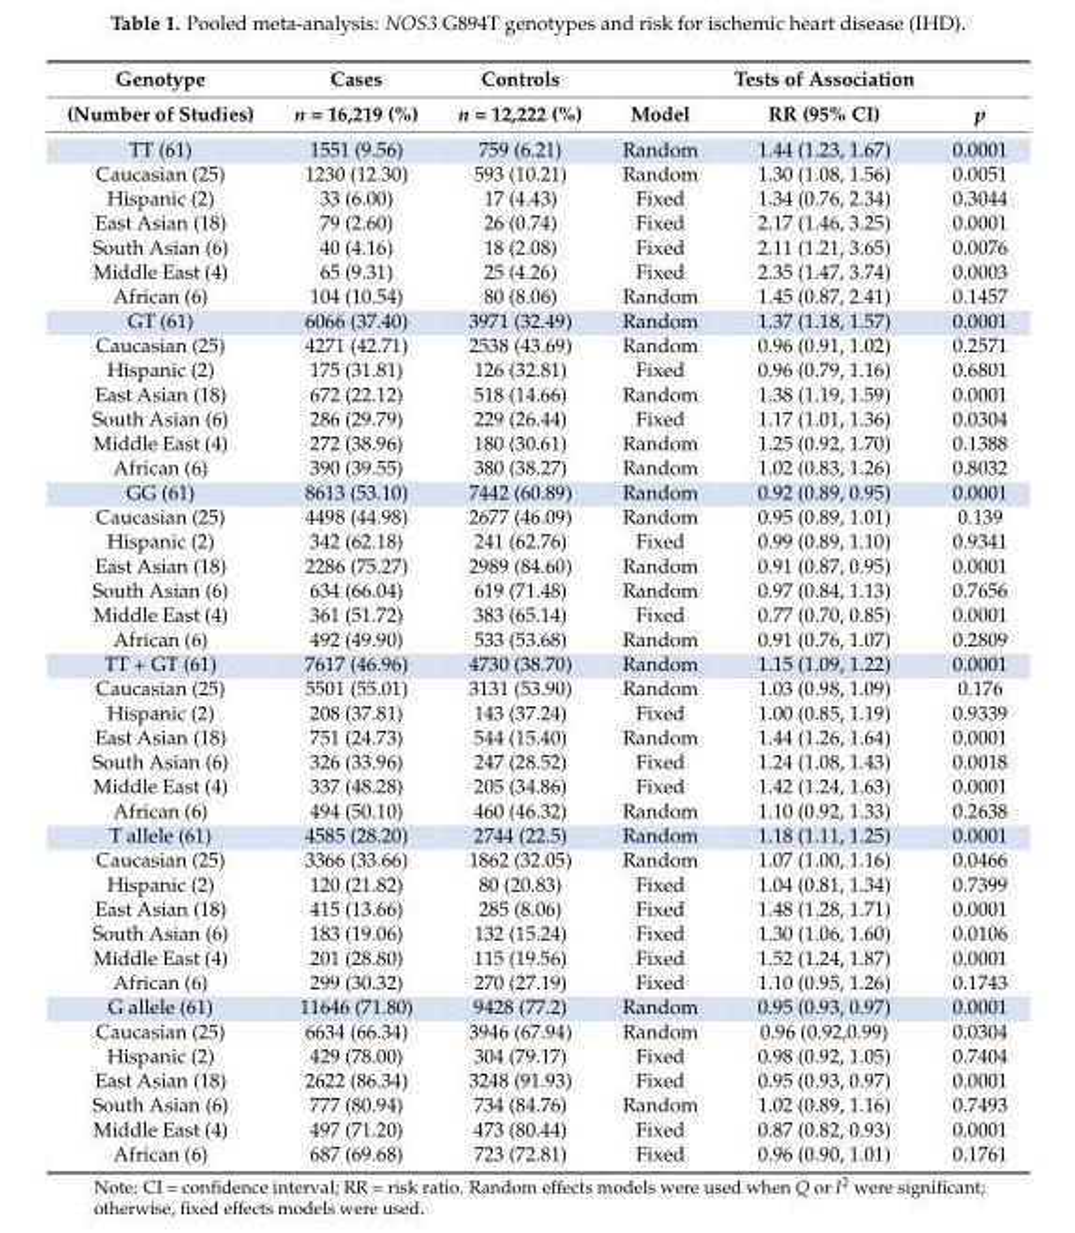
<table><thead><tr><td rowspan="2">Genotype (Number of Studies)</td><td rowspan="2">Cases n = 16,219 (%)</td><td rowspan="2">Controls n = 12,222 (%)</td><td rowspan="2">Model</td><td rowspan="2">Tests of Association RR (95% CI)</td><td rowspan="2">p</td></tr><tr></tr></thead><tbody><tr><td>TT (61)</td><td>1551 (9.56)</td><td>759 (6.21)</td><td>Random</td><td>1.44 (1.23, 1.67)</td><td>0.0001</td></tr><tr><td>Caucasian (25)</td><td>1230 (12.30)</td><td>593 (10.21)</td><td>Random</td><td>1.30 (1.08, 1.56)</td><td>0.0051</td></tr><tr><td>Hispanic (2)</td><td>33 (6.00)</td><td>17 (4.43)</td><td>Fixed</td><td>1.34 (0.76, 2.34)</td><td>0.3044</td></tr><tr><td>East Asian (18)</td><td>79 (2.60)</td><td>26 (0.74)</td><td>Fixed</td><td>2.17 (1.46, 3.25)</td><td>0.0001</td></tr><tr><td>South Asian (6)</td><td>40 (4.16)</td><td>18 (2.08)</td><td>Fixed</td><td>2.11 (1.21, 3.65)</td><td>0.0076</td></tr><tr><td>Middle East (4)</td><td>65 (9.31)</td><td>25 (4.26)</td><td>Fixed</td><td>2.35 (1.47, 3.74)</td><td>0.0003</td></tr><tr><td>African (6)</td><td>104 (10.54)</td><td>80 (8.06)</td><td>Random</td><td>1.45 (0.87, 2.41)</td><td>0.1457</td></tr><tr><td>GT (61)</td><td>6066 (37.40)</td><td>3971 (32.49)</td><td>Random</td><td>1.37 (1.18, 1.57)</td><td>0.0001</td></tr><tr><td>Caucasian (25)</td><td>4271 (42.71)</td><td>2538 (43.69)</td><td>Random</td><td>0.96 (0.91, 1.02)</td><td>0.2571</td></tr><tr><td>Hispanic (2)</td><td>175 (31.81)</td><td>126 (32.81)</td><td>Fixed</td><td>0.96 (0.79, 1.16)</td><td>0.6801</td></tr><tr><td>East Asian (18)</td><td>672 (22.12)</td><td>518 (14.66)</td><td>Random</td><td>1.38 (1.19, 1.59)</td><td>0.0001</td></tr><tr><td>South Asian (6)</td><td>286 (29.79)</td><td>229 (26.44)</td><td>Fixed</td><td>1.17 (1.01, 1.36)</td><td>0.0304</td></tr><tr><td>Middle East (4)</td><td>272 (38.96)</td><td>180 (30.61)</td><td>Random</td><td>1.25 (0.92, 1.70)</td><td>0.1388</td></tr><tr><td>African (6)</td><td>390 (39.55)</td><td>380 (38.27)</td><td>Random</td><td>1.02 (0.83, 1.26)</td><td>0.8032</td></tr><tr><td>GG (61)</td><td>8613 (53.10)</td><td>7442 (60.89)</td><td>Random</td><td>0.92 (0.89, 0.95)</td><td>0.0001</td></tr><tr><td>Caucasian (25)</td><td>4498 (44.98)</td><td>2677 (46.09)</td><td>Random</td><td>0.95 (0.89, 1.01)</td><td>0.139</td></tr><tr><td>Hispanic (2)</td><td>342 (62.18)</td><td>241 (62.76)</td><td>Fixed</td><td>0.99 (0.89, 1.10)</td><td>0.9341</td></tr><tr><td>East Asian (18)</td><td>2286 (75.27)</td><td>2989 (84.60)</td><td>Random</td><td>0.91 (0.87, 0.95)</td><td>0.0001</td></tr><tr><td>South Asian (6)</td><td>634 (66.04)</td><td>619 (71.48)</td><td>Random</td><td>0.97 (0.84, 1.13)</td><td>0.7656</td></tr><tr><td>Middle East (4)</td><td>361 (51.72)</td><td>383 (65.14)</td><td>Fixed</td><td>0.77 (0.70, 0.85)</td><td>0.0001</td></tr><tr><td>African (6)</td><td>492 (49.90)</td><td>533 (53.68)</td><td>Random</td><td>0.91 (0.76, 1.07)</td><td>0.2809</td></tr><tr><td>TT + GT (61)</td><td>7617 (46.96)</td><td>4730 (38.70)</td><td>Random</td><td>1.15 (1.09, 1.22)</td><td>0.0001</td></tr><tr><td>Caucasian (25)</td><td>5501 (55.01)</td><td>3131 (53.90)</td><td>Random</td><td>1.03 (0.98, 1.09)</td><td>0.176</td></tr><tr><td>Hispanic (2)</td><td>208 (37.81)</td><td>143 (37.24)</td><td>Fixed</td><td>1.00 (0.85, 1.19)</td><td>0.9339</td></tr><tr><td>East Asian (18)</td><td>751 (24.73)</td><td>544 (15.40)</td><td>Random</td><td>1.44 (1.26, 1.64)</td><td>0.0001</td></tr><tr><td>South Asian (6)</td><td>326 (33.96)</td><td>247 (28.52)</td><td>Fixed</td><td>1.24 (1.08, 1.43)</td><td>0.0018</td></tr><tr><td>Middle East (4)</td><td>337 (48.28)</td><td>205 (34.86)</td><td>Fixed</td><td>1.42 (1.24, 1.63)</td><td>0.0001</td></tr><tr><td>African (6)</td><td>494 (50.10)</td><td>460 (46.32)</td><td>Random</td><td>1.10 (0.92, 1.33)</td><td>0.2638</td></tr><tr><td>T allele (61)</td><td>4585 (28.20)</td><td>2744 (22.5)</td><td>Random</td><td>1.18 (1.11, 1.25)</td><td>0.0001</td></tr><tr><td>Caucasian (25)</td><td>3366 (33.66)</td><td>1862 (32.05)</td><td>Random</td><td>1.07 (1.00, 1.16)</td><td>0.0466</td></tr><tr><td>Hispanic (2)</td><td>120 (21.82)</td><td>80 (20.83)</td><td>Fixed</td><td>1.04 (0.81, 1.34)</td><td>0.7399</td></tr><tr><td>East Asian (18)</td><td>415 (13.66)</td><td>285 (8.06)</td><td>Fixed</td><td>1.48 (1.28, 1.71)</td><td>0.0001</td></tr><tr><td>South Asian (6)</td><td>183 (19.06)</td><td>132 (15.24)</td><td>Fixed</td><td>1.30 (1.06, 1.60)</td><td>0.0106</td></tr><tr><td>Middle East (4)</td><td>201 (28.80)</td><td>115 (19.56)</td><td>Fixed</td><td>1.52 (1.24, 1.87)</td><td>0.0001</td></tr><tr><td>African (6)</td><td>299 (30.32)</td><td>270 (27.19)</td><td>Fixed</td><td>1.10 (0.95, 1.26)</td><td>0.1743</td></tr><tr><td>G allele (61)</td><td>11646 (71.80)</td><td>9428 (77.2)</td><td>Random</td><td>0.95 (0.93, 0.97)</td><td>0.0001</td></tr><tr><td>Caucasian (25)</td><td>6634 (66.34)</td><td>3946 (67.94)</td><td>Random</td><td>0.96 (0.92,0.99)</td><td>0.0304</td></tr><tr><td>Hispanic (2)</td><td>429 (78.00)</td><td>304 (79.17)</td><td>Fixed</td><td>0.98 (0.92, 1.05)</td><td>0.7404</td></tr><tr><td>East Asian (18)</td><td>2622 (86.34)</td><td>3248 (91.93)</td><td>Fixed</td><td>0.95 (0.93, 0.97)</td><td>0.0001</td></tr><tr><td>South Asian (6)</td><td>777 (80.94)</td><td>734 (84.76)</td><td>Random</td><td>1.02 (0.89, 1.16)</td><td>0.7493</td></tr><tr><td>Middle East (4)</td><td>497 (71.20)</td><td>473 (80.44)</td><td>Fixed</td><td>0.87 (0.82, 0.93)</td><td>0.0001</td></tr><tr><td>African (6)</td><td>687 (69.68)</td><td>723 (72.81)</td><td>Fixed</td><td>0.96 (0.90, 1.01)</td><td>0.1761</td></tr></tbody></table>